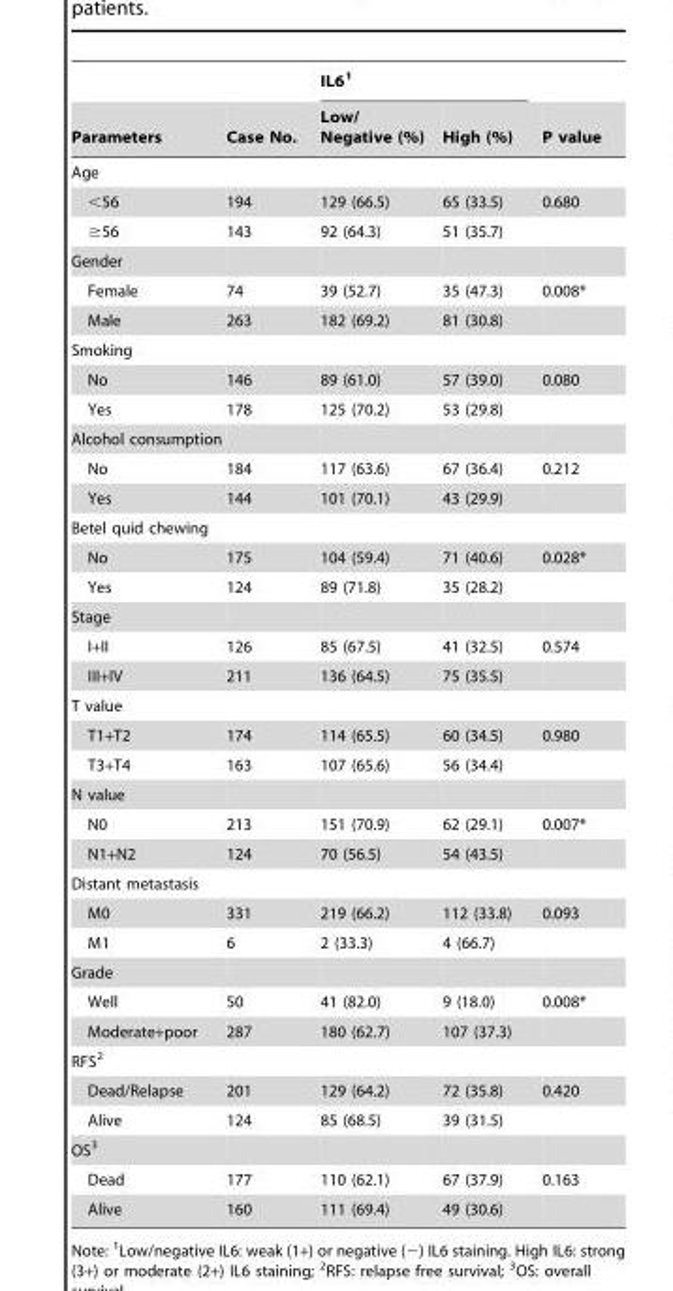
<table><thead><tr><td rowspan="2">Parameters</td><td rowspan="2">Case No.</td><td colspan="2">IL6<sup>1</sup></td><td rowspan="2">P value</td></tr><tr><td>Low/ Negative (%)</td><td>High (%)</td></tr></thead><tbody><tr><td colspan="5">Age</td></tr><tr><td>&lt;56</td><td>194</td><td>129 (66.5)</td><td>65 (33.5)</td><td>0.680</td></tr><tr><td>≥56</td><td>143</td><td>92 (64.3)</td><td>51 (35.7)</td><td></td></tr><tr><td colspan="5">Gender</td></tr><tr><td>Female</td><td>74</td><td>39 (52.7)</td><td>35 (47.3)</td><td>0.008*</td></tr><tr><td>Male</td><td>263</td><td>182 (69.2)</td><td>81 (30.8)</td><td></td></tr><tr><td colspan="5">Smoking</td></tr><tr><td>No</td><td>146</td><td>89 (61.0)</td><td>57 (39.0)</td><td>0.080</td></tr><tr><td>Yes</td><td>178</td><td>125 (70.2)</td><td>53 (29.8)</td><td></td></tr><tr><td colspan="5">Alcohol consumption</td></tr><tr><td>No</td><td>184</td><td>117 (63.6)</td><td>67 (36.4)</td><td>0.212</td></tr><tr><td>Yes</td><td>144</td><td>101 (70.1)</td><td>43 (29.9)</td><td></td></tr><tr><td colspan="5">Betel quid chewing</td></tr><tr><td>No</td><td>175</td><td>104 (59.4)</td><td>71 (40.6)</td><td>0.028*</td></tr><tr><td>Yes</td><td>124</td><td>89 (71.8)</td><td>35 (28.2)</td><td></td></tr><tr><td colspan="5">Stage</td></tr><tr><td>I+II</td><td>126</td><td>85 (67.5)</td><td>41 (32.5)</td><td>0.574</td></tr><tr><td>III+IV</td><td>211</td><td>136 (64.5)</td><td>75 (35.5)</td><td></td></tr><tr><td colspan="5">T value</td></tr><tr><td>T1+T2</td><td>174</td><td>114 (65.5)</td><td>60 (34.5)</td><td>0.980</td></tr><tr><td>T3+T4</td><td>163</td><td>107 (65.6)</td><td>56 (34.4)</td><td></td></tr><tr><td colspan="5">N value</td></tr><tr><td>N0</td><td>213</td><td>151 (70.9)</td><td>62 (29.1)</td><td>0.007*</td></tr><tr><td>N1+N2</td><td>124</td><td>70 (56.5)</td><td>54 (43.5)</td><td></td></tr><tr><td colspan="5">Distant metastasis</td></tr><tr><td>M0</td><td>331</td><td>219 (66.2)</td><td>112 (33.8)</td><td>0.093</td></tr><tr><td>M1</td><td>6</td><td>2 (33.3)</td><td>4 (66.7)</td><td></td></tr><tr><td colspan="5">Grade</td></tr><tr><td>Well</td><td>50</td><td>41 (82.0)</td><td>9 (18.0)</td><td>0.008*</td></tr><tr><td>Moderate+poor</td><td>287</td><td>180 (62.7)</td><td>107 (37.3)</td><td></td></tr><tr><td colspan="5">RFS<sup>2</sup></td></tr><tr><td>Dead/Relapse</td><td>201</td><td>129 (64.2)</td><td>72 (35.8)</td><td>0.420</td></tr><tr><td>Alive</td><td>124</td><td>85 (68.5)</td><td>39 (31.5)</td><td></td></tr><tr><td colspan="5">OS<sup>3</sup></td></tr><tr><td>Dead</td><td>177</td><td>110 (62.1)</td><td>67 (37.9)</td><td>0.163</td></tr><tr><td>Alive</td><td>160</td><td>111 (69.4)</td><td>49 (30.6)</td><td></td></tr></tbody></table>